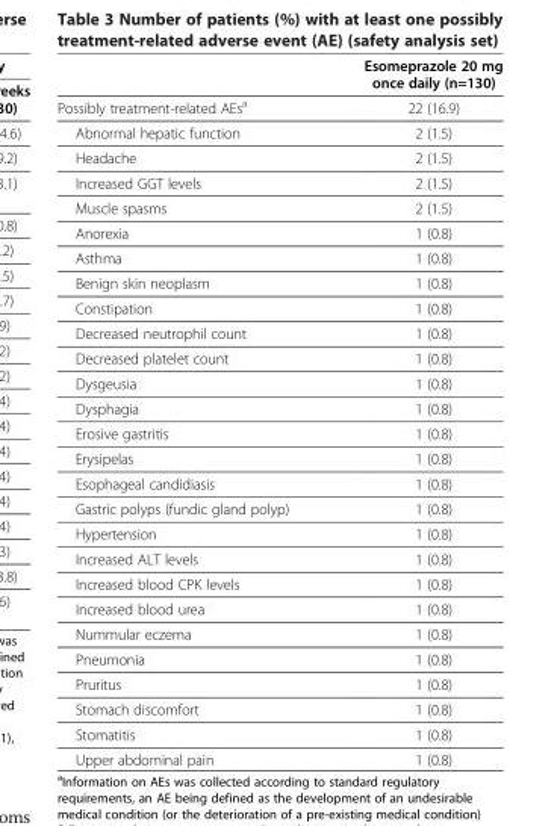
<table><thead><tr><td></td><td>Esomeprazole 20 mg once daily (n=130)</td></tr></thead><tbody><tr><td>Possibly treatment-related AEs<sup>a</sup></td><td>22 (16.9)</td></tr><tr><td>Abnormal hepatic function</td><td>2 (1.5)</td></tr><tr><td>Headache</td><td>2 (1.5)</td></tr><tr><td>Increased GGT levels</td><td>2 (1.5)</td></tr><tr><td>Muscle spasms</td><td>2 (1.5)</td></tr><tr><td>Anorexia</td><td>1 (0.8)</td></tr><tr><td>Asthma</td><td>1 (0.8)</td></tr><tr><td>Benign skin neoplasm</td><td>1 (0.8)</td></tr><tr><td>Constipation</td><td>1 (0.8)</td></tr><tr><td>Decreased neutrophil count</td><td>1 (0.8)</td></tr><tr><td>Decreased platelet count</td><td>1 (0.8)</td></tr><tr><td>Dysgeusia</td><td>1 (0.8)</td></tr><tr><td>Dysphagia</td><td>1 (0.8)</td></tr><tr><td>Erosive gastritis</td><td>1 (0.8)</td></tr><tr><td>Erysipelas</td><td>1 (0.8)</td></tr><tr><td>Esophageal candidiasis</td><td>1 (0.8)</td></tr><tr><td>Gastric polyps (fundic gland polyp)</td><td>1 (0.8)</td></tr><tr><td>Hypertension</td><td>1 (0.8)</td></tr><tr><td>Increased ALT levels</td><td>1 (0.8)</td></tr><tr><td>Increased blood CPK levels</td><td>1 (0.8)</td></tr><tr><td>Increased blood urea</td><td>1 (0.8)</td></tr><tr><td>Nummular eczema</td><td>1 (0.8)</td></tr><tr><td>Pneumonia</td><td>1 (0.8)</td></tr><tr><td>Pruritus</td><td>1 (0.8)</td></tr><tr><td>Stomach discomfort</td><td>1 (0.8)</td></tr><tr><td>Stomatitis</td><td>1 (0.8)</td></tr><tr><td>Upper abdominal pain</td><td>1 (0.8)</td></tr></tbody></table>